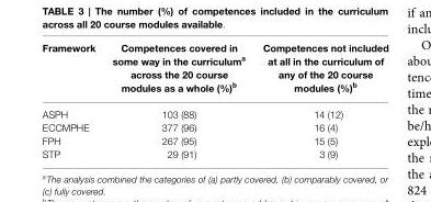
<table><thead><tr><td>Framework</td><td>Competences covered in some way in the curriculum<sup>a</sup> across the 20 course modules as a whole (%)<sup>b</sup></td><td>Competences not included at all in the curriculum of any of the 20 course modules (%)<sup>b</sup></td></tr></thead><tbody><tr><td>ASPH</td><td>103 (88)</td><td>14 (12)</td></tr><tr><td>ECCMPHE</td><td>377 (96)</td><td>16 (4)</td></tr><tr><td>FPH</td><td>267 (95)</td><td>15 (5)</td></tr><tr><td>STP</td><td>29 (91)</td><td>3 (9)</td></tr></tbody></table>